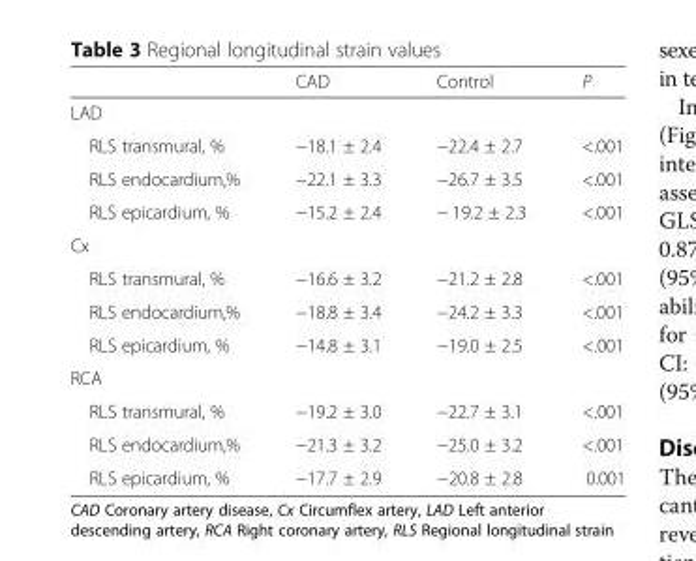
<table><thead><tr><td></td><td>CAD</td><td>Control</td><td>P</td></tr></thead><tbody><tr><td colspan="4">LAD</td></tr><tr><td>RLS transmural, %</td><td>−18.1 ± 2.4</td><td>−22.4 ± 2.7</td><td>&lt;.001</td></tr><tr><td>RLS endocardium,%</td><td>−22.1 ± 3.3</td><td>−26.7 ± 3.5</td><td>&lt;.001</td></tr><tr><td>RLS epicardium, %</td><td>−15.2 ± 2.4</td><td>− 19.2 ± 2.3</td><td>&lt;.001</td></tr><tr><td colspan="4">Cx</td></tr><tr><td>RLS transmural, %</td><td>−16.6 ± 3.2</td><td>−21.2 ± 2.8</td><td>&lt;.001</td></tr><tr><td>RLS endocardium,%</td><td>−18.8 ± 3.4</td><td>−24.2 ± 3.3</td><td>&lt;.001</td></tr><tr><td>RLS epicardium, %</td><td>−14.8 ± 3.1</td><td>−19.0 ± 2.5</td><td>&lt;.001</td></tr><tr><td colspan="4">RCA</td></tr><tr><td>RLS transmural, %</td><td>−19.2 ± 3.0</td><td>−22.7 ± 3.1</td><td>&lt;.001</td></tr><tr><td>RLS endocardium,%</td><td>−21.3 ± 3.2</td><td>−25.0 ± 3.2</td><td>&lt;.001</td></tr><tr><td>RLS epicardium, %</td><td>−17.7 ± 2.9</td><td>−20.8 ± 2.8</td><td>0.001</td></tr></tbody></table>